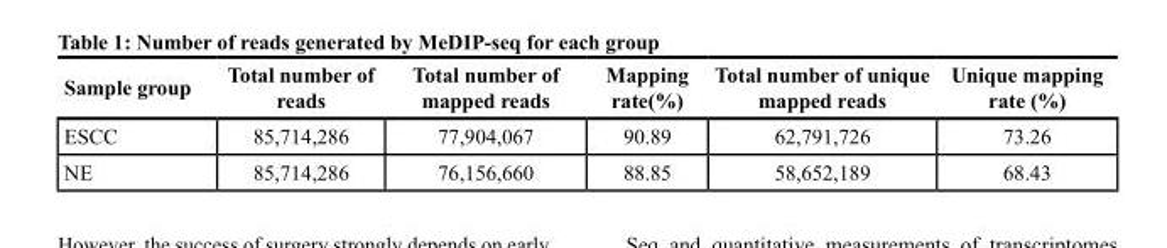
<table><thead><tr><td>Sample group</td><td>Total number of reads</td><td>Total number of mapped reads</td><td>Mapping rate(%)</td><td>Total number of unique mapped reads</td><td>Unique mapping rate (%)</td></tr></thead><tbody><tr><td>ESCC</td><td>85,714,286</td><td>77,904,067</td><td>90.89</td><td>62,791,726</td><td>73.26</td></tr><tr><td>NE</td><td>85,714,286</td><td>76,156,660</td><td>88.85</td><td>58,652,189</td><td>68.43</td></tr></tbody></table>